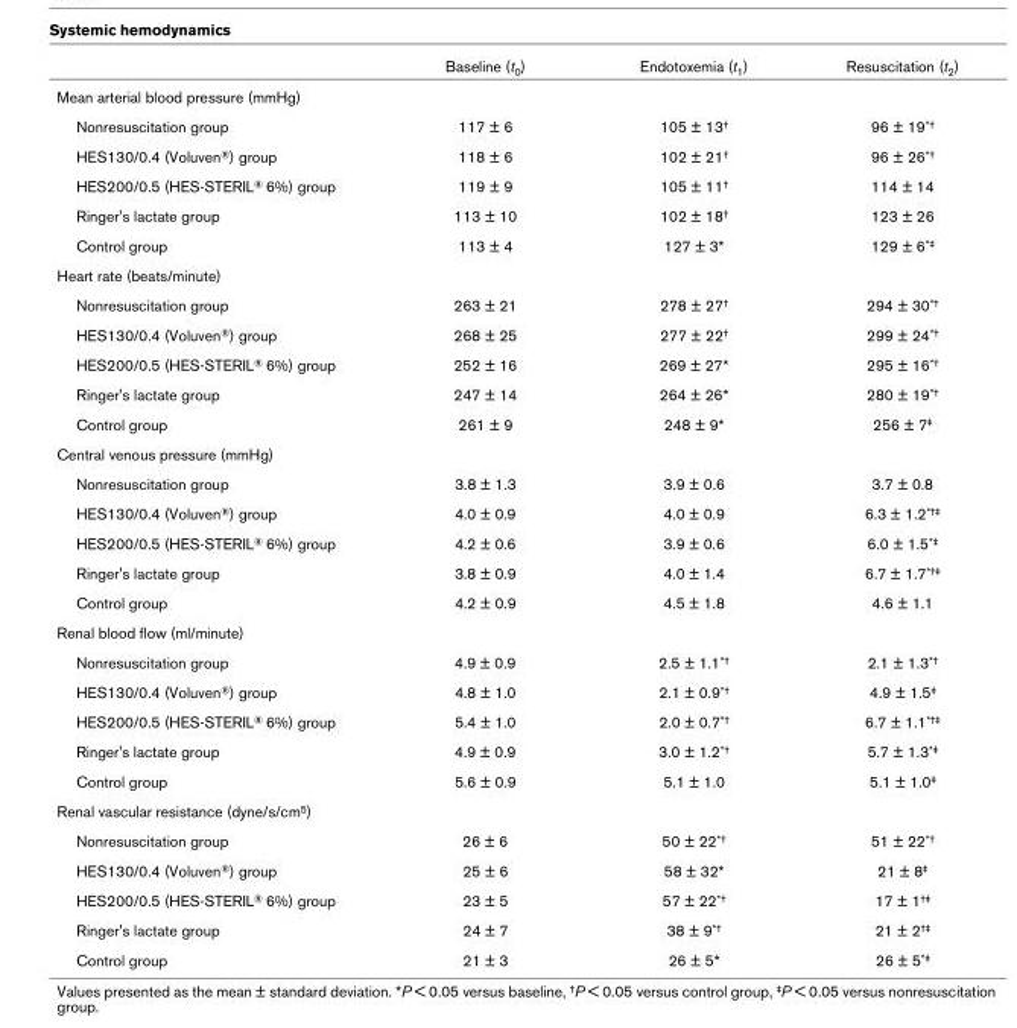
<table><thead><tr><td></td><td>Baseline (t0)</td><td>Endotoxemia (t1)</td><td>Resuscitation (t2)</td></tr></thead><tbody><tr><td colspan="4">Mean arterial blood pressure (mmHg)</td></tr><tr><td>Nonresuscitation group</td><td>117 ± 6</td><td>105 ± 13†</td><td>96 ± 19*†</td></tr><tr><td>HES130/0.4 (Voluven®) group</td><td>118 ± 6</td><td>102 ± 21†</td><td>96 ± 26*†</td></tr><tr><td>HES200/0.5 (HES-STERIL® 6%) group</td><td>119 ± 9</td><td>105 ± 11†</td><td>114 ± 14</td></tr><tr><td>Ringer&#x27;s lactate group</td><td>113 ± 10</td><td>102 ± 18†</td><td>123 ± 26</td></tr><tr><td>Control group</td><td>113 ± 4</td><td>127 ± 3*</td><td>129 ± 6*‡</td></tr><tr><td colspan="4">Heart rate (beats/minute)</td></tr><tr><td>Nonresuscitation group</td><td>263 ± 21</td><td>278 ± 27†</td><td>294 ± 30*†</td></tr><tr><td>HES130/0.4 (Voluven®) group</td><td>268 ± 25</td><td>277 ± 22†</td><td>299 ± 24*†</td></tr><tr><td>HES200/0.5 (HES-STERIL® 6%) group</td><td>252 ± 16</td><td>269 ± 27*</td><td>295 ± 16*†</td></tr><tr><td>Ringer&#x27;s lactate group</td><td>247 ± 14</td><td>264 ± 26*</td><td>280 ± 19*†</td></tr><tr><td>Control group</td><td>261 ± 9</td><td>248 ± 9*</td><td>256 ± 7‡</td></tr><tr><td colspan="4">Central venous pressure (mmHg)</td></tr><tr><td>Nonresuscitation group</td><td>3.8 ± 1.3</td><td>3.9 ± 0.6</td><td>3.7 ± 0.8</td></tr><tr><td>HES130/0.4 (Voluven®) group</td><td>4.0 ± 0.9</td><td>4.0 ± 0.9</td><td>6.3 ± 1.2*†‡</td></tr><tr><td>HES200/0.5 (HES-STERIL® 6%) group</td><td>4.2 ± 0.6</td><td>3.9 ± 0.6</td><td>6.0 ± 1.5*‡</td></tr><tr><td>Ringer&#x27;s lactate group</td><td>3.8 ± 0.9</td><td>4.0 ± 1.4</td><td>6.7 ± 1.7*†‡</td></tr><tr><td>Control group</td><td>4.2 ± 0.9</td><td>4.5 ± 1.8</td><td>4.6 ± 1.1</td></tr><tr><td colspan="4">Renal blood flow (ml/minute)</td></tr><tr><td>Nonresuscitation group</td><td>4.9 ± 0.9</td><td>2.5 ± 1.1*†</td><td>2.1 ± 1.3*†</td></tr><tr><td>HES130/0.4 (Voluven®) group</td><td>4.8 ± 1.0</td><td>2.1 ± 0.9*†</td><td>4.9 ± 1.5‡</td></tr><tr><td>HES200/0.5 (HES-STERIL® 6%) group</td><td>5.4 ± 1.0</td><td>2.0 ± 0.7*†</td><td>6.7 ± 1.1*†‡</td></tr><tr><td>Ringer&#x27;s lactate group</td><td>4.9 ± 0.9</td><td>3.0 ± 1.2*†</td><td>5.7 ± 1.3*‡</td></tr><tr><td>Control group</td><td>5.6 ± 0.9</td><td>5.1 ± 1.0</td><td>5.1 ± 1.0‡</td></tr><tr><td colspan="4">Renal vascular resistance (dyne/s/cm5)</td></tr><tr><td>Nonresuscitation group</td><td>26 ± 6</td><td>50 ± 22*†</td><td>51 ± 22*†</td></tr><tr><td>HES130/0.4 (Voluven®) group</td><td>25 ± 6</td><td>58 ± 32*</td><td>21 ± 8‡</td></tr><tr><td>HES200/0.5 (HES-STERIL® 6%) group</td><td>23 ± 5</td><td>57 ± 22*†</td><td>17 ± 1†‡</td></tr><tr><td>Ringer&#x27;s lactate group</td><td>24 ± 7</td><td>38 ± 9*†</td><td>21 ± 2†‡</td></tr><tr><td>Control group</td><td>21 ± 3</td><td>26 ± 5*</td><td>26 ± 5*‡</td></tr></tbody></table>